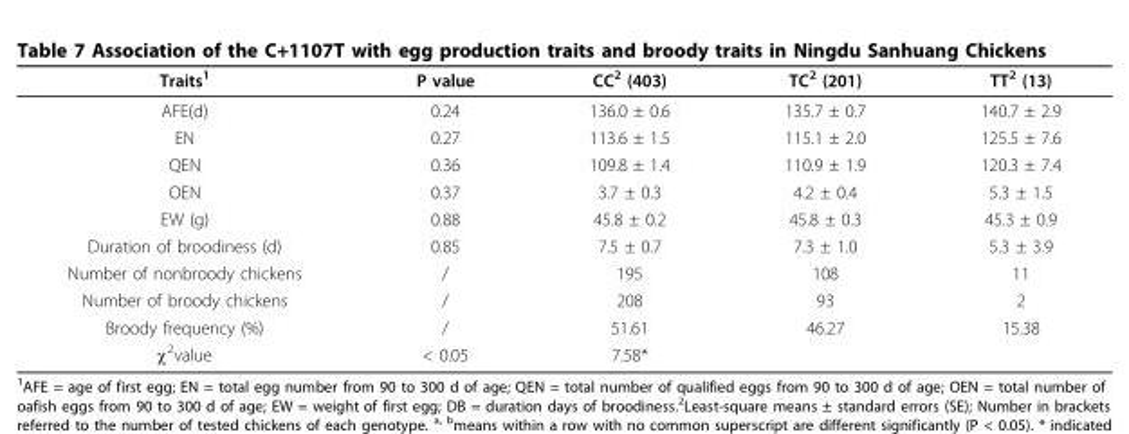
<table><thead><tr><td>Traits<sup>1</sup></td><td>P value</td><td>CC<sup>2</sup> (403)</td><td>TC<sup>2</sup> (201)</td><td>TT<sup>2</sup> (13)</td></tr></thead><tbody><tr><td>AFE(d)</td><td>0.24</td><td>136.0 ± 0.6</td><td>135.7 ± 0.7</td><td>140.7 ± 2.9</td></tr><tr><td>EN</td><td>0.27</td><td>113.6 ± 1.5</td><td>115.1 ± 2.0</td><td>125.5 ± 7.6</td></tr><tr><td>QEN</td><td>0.36</td><td>109.8 ± 1.4</td><td>110.9 ± 1.9</td><td>120.3 ± 7.4</td></tr><tr><td>OEN</td><td>0.37</td><td>3.7 ± 0.3</td><td>4.2 ± 0.4</td><td>5.3 ± 1.5</td></tr><tr><td>EW (g)</td><td>0.88</td><td>45.8 ± 0.2</td><td>45.8 ± 0.3</td><td>45.3 ± 0.9</td></tr><tr><td>Duration of broodiness (d)</td><td>0.85</td><td>7.5 ± 0.7</td><td>7.3 ± 1.0</td><td>5.3 ± 3.9</td></tr><tr><td>Number of nonbroody chickens</td><td>/</td><td>195</td><td>108</td><td>11</td></tr><tr><td>Number of broody chickens</td><td>/</td><td>208</td><td>93</td><td>2</td></tr><tr><td>Broody frequency (%)</td><td>/</td><td>51.61</td><td>46.27</td><td>15.38</td></tr><tr><td>χ<sup>2</sup>value</td><td>&lt; 0.05</td><td>7.58*</td><td></td><td></td></tr></tbody></table>